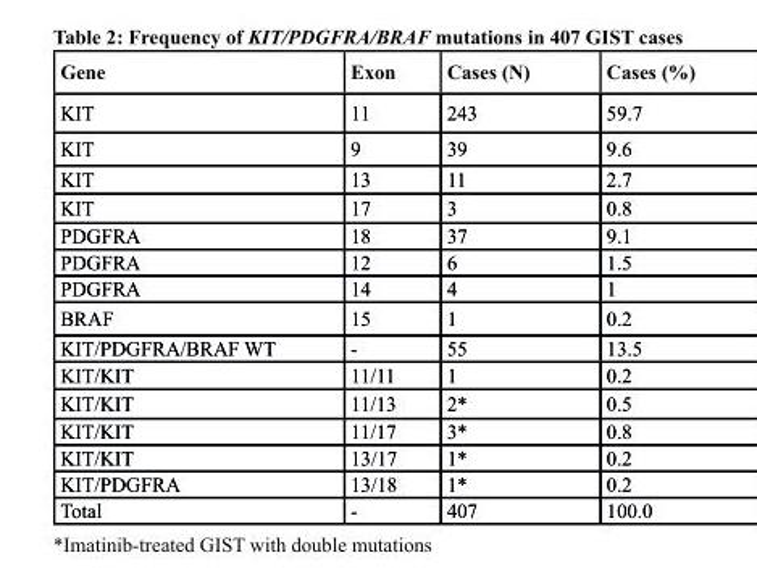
<table><thead><tr><td>Gene</td><td>Exon</td><td>cases (n)</td><td>cases (%)</td></tr></thead><tbody><tr><td>KIT</td><td>11</td><td>243</td><td>59.7</td></tr><tr><td>KIT</td><td>9</td><td>39</td><td>9.6</td></tr><tr><td>KIT</td><td>13</td><td>11</td><td>2.7</td></tr><tr><td>KIT</td><td>17</td><td>3</td><td>0.8</td></tr><tr><td>PDGFRA</td><td>18</td><td>37</td><td>9.1</td></tr><tr><td>PDGFRA</td><td>12</td><td>6</td><td>1.5</td></tr><tr><td>PDGFRA</td><td>14</td><td>4</td><td>1</td></tr><tr><td>BRAF</td><td>15</td><td>1</td><td>0.2</td></tr><tr><td>KIT/PDGFRA/BRAF WT</td><td>-</td><td>55</td><td>13.5</td></tr><tr><td>KIT/KIT</td><td>11/11</td><td>1</td><td>0.2</td></tr><tr><td>KIT/KIT</td><td>11/13</td><td>2*</td><td>0.5</td></tr><tr><td>KIT/KIT</td><td>11/17</td><td>3*</td><td>0.8</td></tr><tr><td>KIT/KIT</td><td>13/17</td><td>1*</td><td>0.2</td></tr><tr><td>KIT/PDGFRA</td><td>13/18</td><td>1*</td><td>0.2</td></tr><tr><td>Total</td><td>-</td><td>407</td><td>100.0</td></tr></tbody></table>